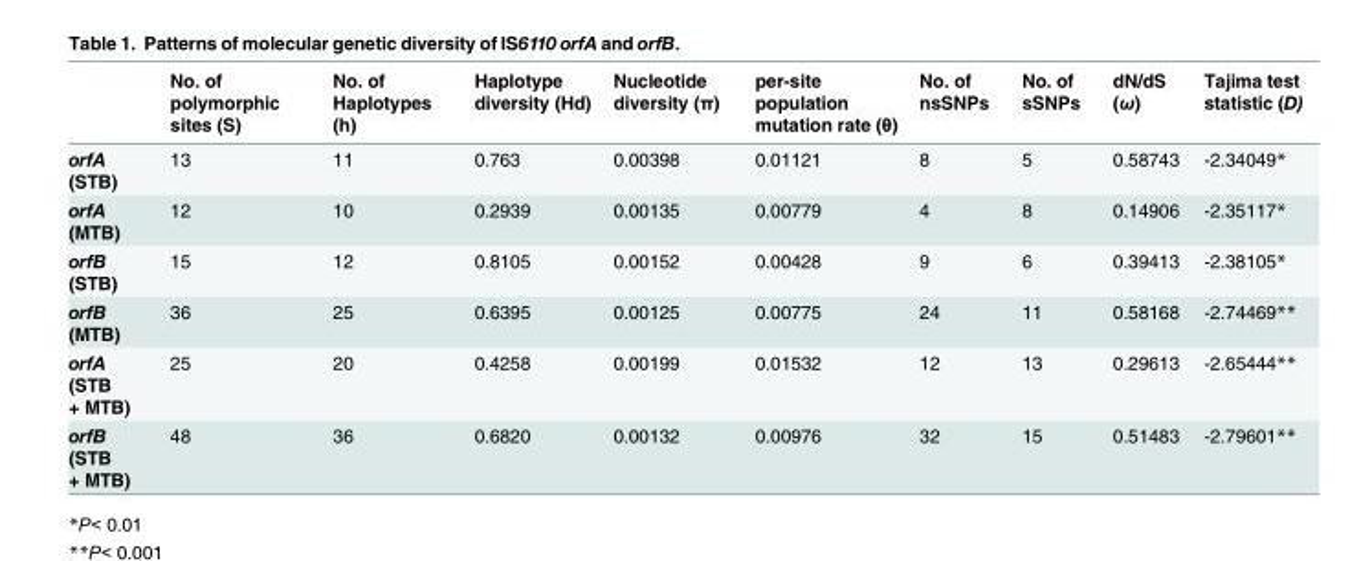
<table><thead><tr><td></td><td>No. of polymorphic sites (S)</td><td>No. of Haplotypes (h)</td><td>Haplotype diversity (Hd)</td><td>Nucleotide diversity (π)</td><td>per-site population mutation rate (θ)</td><td>No. of nsSNPs</td><td>No. of sSNPs</td><td>dN/dS (ω)</td><td>Tajima test statistic (D)</td></tr></thead><tbody><tr><td>orfA (STB)</td><td>13</td><td>11</td><td>0.763</td><td>0.00398</td><td>0.01121</td><td>8</td><td>5</td><td>0.58743</td><td>-2.34049*</td></tr><tr><td>orfA (MTB)</td><td>12</td><td>10</td><td>0.2939</td><td>0.00135</td><td>0.00779</td><td>4</td><td>8</td><td>0.14906</td><td>-2.35117*</td></tr><tr><td>orfB (STB)</td><td>15</td><td>12</td><td>0.8105</td><td>0.00152</td><td>0.00428</td><td>9</td><td>6</td><td>0.39413</td><td>-2.38105*</td></tr><tr><td>orfB (MTB)</td><td>36</td><td>25</td><td>0.6395</td><td>0.00125</td><td>0.00775</td><td>24</td><td>11</td><td>0.58168</td><td>-2.74469**</td></tr><tr><td>orfA (STB + MTB)</td><td>25</td><td>20</td><td>0.4258</td><td>0.00199</td><td>0.01532</td><td>12</td><td>13</td><td>0.29613</td><td>-2.65444**</td></tr><tr><td>orfB (STB + MTB)</td><td>48</td><td>36</td><td>0.6820</td><td>0.00132</td><td>0.00976</td><td>32</td><td>15</td><td>0.51483</td><td>-2.79601**</td></tr></tbody></table>